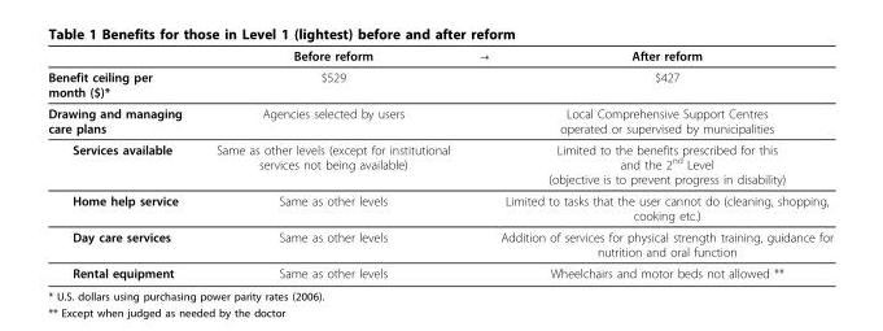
<table><thead><tr><td></td><td>Before reform</td><td>→</td><td>After reform</td></tr></thead><tbody><tr><td>Benefit ceiling per month ($)*</td><td>$529</td><td></td><td>$427</td></tr><tr><td>Drawing and managing care plans</td><td>Agencies selected by users</td><td></td><td>Local Comprehensive Support Centres operated or supervised by municipalities</td></tr><tr><td>Services available</td><td>Same as other levels (except for institutional services not being available)</td><td></td><td>Limited to the benefits prescribed for this and the 2<sup>nd</sup> Level (objective is to prevent progress in disability)</td></tr><tr><td>Home help service</td><td>Same as other levels</td><td></td><td>Limited to tasks that the user cannot do (cleaning, shopping, cooking etc.)</td></tr><tr><td>Day care services</td><td>Same as other levels</td><td></td><td>Addition of services for physical strength training, guidance for nutrition and oral function</td></tr><tr><td>Rental equipment</td><td>Same as other levels</td><td></td><td>Wheelchairs and motor beds not allowed **</td></tr></tbody></table>